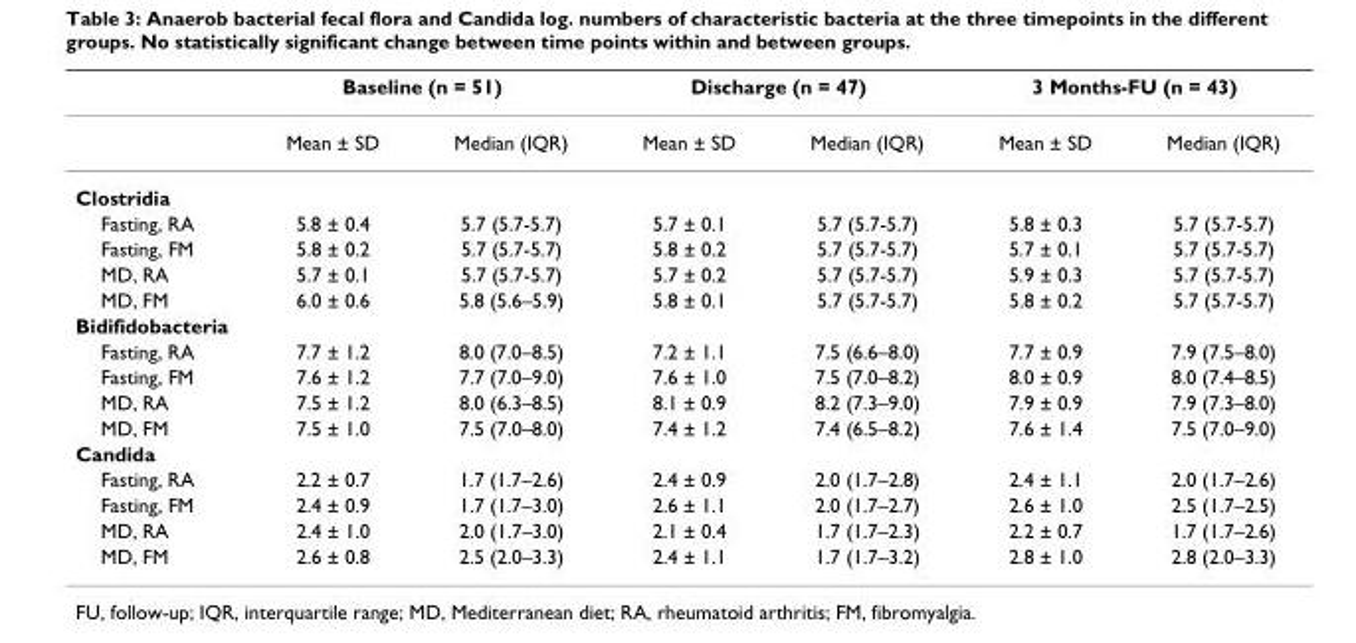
<table><thead><tr><td rowspan="2"></td><td colspan="2">Baseline (n = 51)</td><td colspan="2">Discharge (n = 47)</td><td colspan="2">3 Months-FU (n = 43)</td></tr><tr><td>Mean ± SD</td><td>Median (IQR)</td><td>Mean ± SD</td><td>Median (IQR)</td><td>Mean ± SD</td><td>Median (IQR)</td></tr></thead><tbody><tr><td colspan="7">Clostridia</td></tr><tr><td>Fasting, RA</td><td>5.8 ± 0.4</td><td>5.7 (5.7-5.7)</td><td>5.7 ± 0.1</td><td>5.7 (5.7-5.7)</td><td>5.8 ± 0.3</td><td>5.7 (5.7-5.7)</td></tr><tr><td>Fasting, FM</td><td>5.8 ± 0.2</td><td>5.7 (5.7-5.7)</td><td>5.8 ± 0.2</td><td>5.7 (5.7-5.7)</td><td>5.7 ± 0.1</td><td>5.7 (5.7-5.7)</td></tr><tr><td>MD, RA</td><td>5.7 ± 0.1</td><td>5.7 (5.7-5.7)</td><td>5.7 ± 0.2</td><td>5.7 (5.7-5.7)</td><td>5.9 ± 0.3</td><td>5.7 (5.7-5.7)</td></tr><tr><td>MD, FM</td><td>6.0 ± 0.6</td><td>5.8 (5.6–5.9)</td><td>5.8 ± 0.1</td><td>5.7 (5.7-5.7)</td><td>5.8 ± 0.2</td><td>5.7 (5.7-5.7)</td></tr><tr><td colspan="7">Bidifidobacteria</td></tr><tr><td>Fasting, RA</td><td>7.7 ± 1.2</td><td>8.0 (7.0–8.5)</td><td>7.2 ± 1.1</td><td>7.5 (6.6–8.0)</td><td>7.7 ± 0.9</td><td>7.9 (7.5–8.0)</td></tr><tr><td>Fasting, FM</td><td>7.6 ± 1.2</td><td>7.7 (7.0–9.0)</td><td>7.6 ± 1.0</td><td>7.5 (7.0–8.2)</td><td>8.0 ± 0.9</td><td>8.0 (7.4–8.5)</td></tr><tr><td>MD, RA</td><td>7.5 ± 1.2</td><td>8.0 (6.3–8.5)</td><td>8.1 ± 0.9</td><td>8.2 (7.3–9.0)</td><td>7.9 ± 0.9</td><td>7.9 (7.3–8.0)</td></tr><tr><td>MD, FM</td><td>7.5 ± 1.0</td><td>7.5 (7.0–8.0)</td><td>7.4 ± 1.2</td><td>7.4 (6.5–8.2)</td><td>7.6 ± 1.4</td><td>7.5 (7.0–9.0)</td></tr><tr><td colspan="7">Candida</td></tr><tr><td>Fasting, RA</td><td>2.2 ± 0.7</td><td>1.7 (1.7–2.6)</td><td>2.4 ± 0.9</td><td>2.0 (1.7–2.8)</td><td>2.4 ± 1.1</td><td>2.0 (1.7–2.6)</td></tr><tr><td>Fasting, FM</td><td>2.4 ± 0.9</td><td>1.7 (1.7–3.0)</td><td>2.6 ± 1.1</td><td>2.0 (1.7–2.7)</td><td>2.6 ± 1.0</td><td>2.5 (1.7–2.5)</td></tr><tr><td>MD, RA</td><td>2.4 ± 1.0</td><td>2.0 (1.7–3.0)</td><td>2.1 ± 0.4</td><td>1.7 (1.7–2.3)</td><td>2.2 ± 0.7</td><td>1.7 (1.7–2.6)</td></tr><tr><td>MD, FM</td><td>2.6 ± 0.8</td><td>2.5 (2.0–3.3)</td><td>2.4 ± 1.1</td><td>1.7 (1.7–3.2)</td><td>2.8 ± 1.0</td><td>2.8 (2.0–3.3)</td></tr></tbody></table>